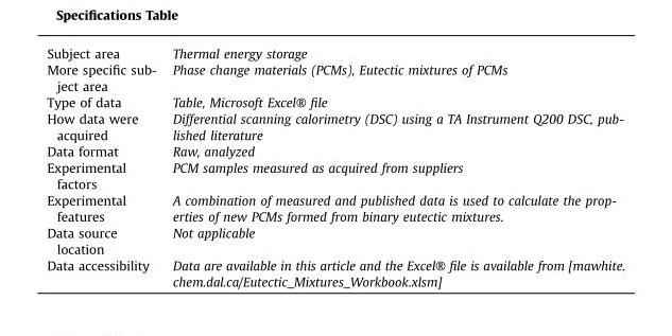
<table><tbody><tr><td>Subject area</td><td>Thermal energy storage</td></tr><tr><td>More specific sub- ject area</td><td>Phase change materials (PCMs), Eutectic mixtures of PCMs</td></tr><tr><td>Type of data</td><td>Table, Microsoft Excel® file</td></tr><tr><td>How data were acquired</td><td>Differential scanning calorimetry (DSC) using a TA Instrument Q200 DSC, pub- lished literature</td></tr><tr><td>Data format</td><td>Raw, analyzed</td></tr><tr><td>Experimental factors</td><td>PCM samples measured as acquired from suppliers</td></tr><tr><td>Experimental features</td><td>A combination of measured and published data is used to calculate the prop- erties of new PCMs formed from binary eutectic mixtures.</td></tr><tr><td>Data source location</td><td>Not applicable</td></tr><tr><td>Data accessibility</td><td>Data are available in this article and the Excel® file is available from [mawhite. chem.dal.ca/Eutectic_Mixtures_Workbook.xlsm]</td></tr></tbody></table>